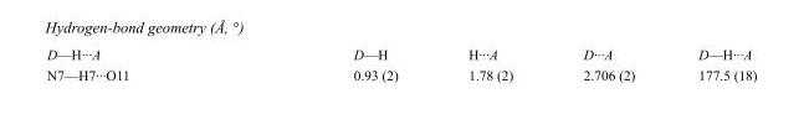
<table><tbody><tr><td>D—H···A</td><td>D—H</td><td>H···A</td><td>D···A</td><td>D—H···A</td></tr><tr><td>N7—H7···O11</td><td>0.93 (2)</td><td>1.78 (2)</td><td>2.706 (2)</td><td>177.5 (18)</td></tr></tbody></table>